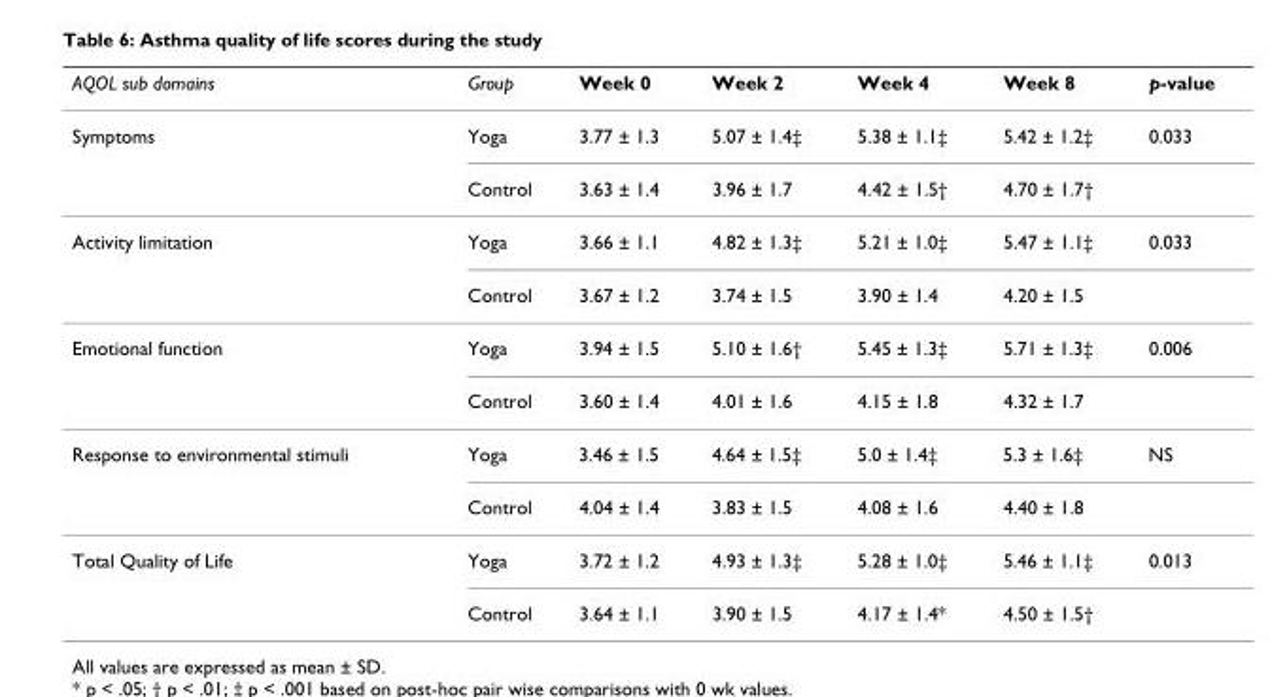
<table><thead><tr><td>AQOL sub domains</td><td>Group</td><td>Week 0</td><td>Week 2</td><td>Week 4</td><td>Week 8</td><td>p-value</td></tr></thead><tbody><tr><td rowspan="2">Symptoms</td><td>Yoga</td><td>3.77 ± 1.3</td><td>5.07 ± 1.4‡</td><td>5.38 ± 1.1‡</td><td>5.42 ± 1.2‡</td><td>0.033</td></tr><tr><td>Control</td><td>3.63 ± 1.4</td><td>3.96 ± 1.7</td><td>4.42 ± 1.5†</td><td>4.70 ± 1.7†</td><td></td></tr><tr><td rowspan="2">Activity limitation</td><td>Yoga</td><td>3.66 ± 1.1</td><td>4.82 ± 1.3‡</td><td>5.21 ± 1.0‡</td><td>5.47 ± 1.1‡</td><td>0.033</td></tr><tr><td>Control</td><td>3.67 ± 1.2</td><td>3.74 ± 1.5</td><td>3.90 ± 1.4</td><td>4.20 ± 1.5</td><td></td></tr><tr><td rowspan="2">Emotional function</td><td>Yoga</td><td>3.94 ± 1.5</td><td>5.10 ± 1.6†</td><td>5.45 ± 1.3‡</td><td>5.71 ± 1.3‡</td><td>0.006</td></tr><tr><td>Control</td><td>3.60 ± 1.4</td><td>4.01 ± 1.6</td><td>4.15 ± 1.8</td><td>4.32 ± 1.7</td><td></td></tr><tr><td rowspan="2">Response to environmental stimuli</td><td>Yoga</td><td>3.46 ± 1.5</td><td>4.64 ± 1.5‡</td><td>5.0 ± 1.4‡</td><td>5.3 ± 1.6‡</td><td>NS</td></tr><tr><td>Control</td><td>4.04 ± 1.4</td><td>3.83 ± 1.5</td><td>4.08 ± 1.6</td><td>4.40 ± 1.8</td><td></td></tr><tr><td rowspan="2">Total Quality of Life</td><td>Yoga</td><td>3.72 ± 1.2</td><td>4.93 ± 1.3‡</td><td>5.28 ± 1.0‡</td><td>5.46 ± 1.1‡</td><td>0.013</td></tr><tr><td>Control</td><td>3.64 ± 1.1</td><td>3.90 ± 1.5</td><td>4.17 ± 1.4*</td><td>4.50 ± 1.5†</td><td></td></tr></tbody></table>